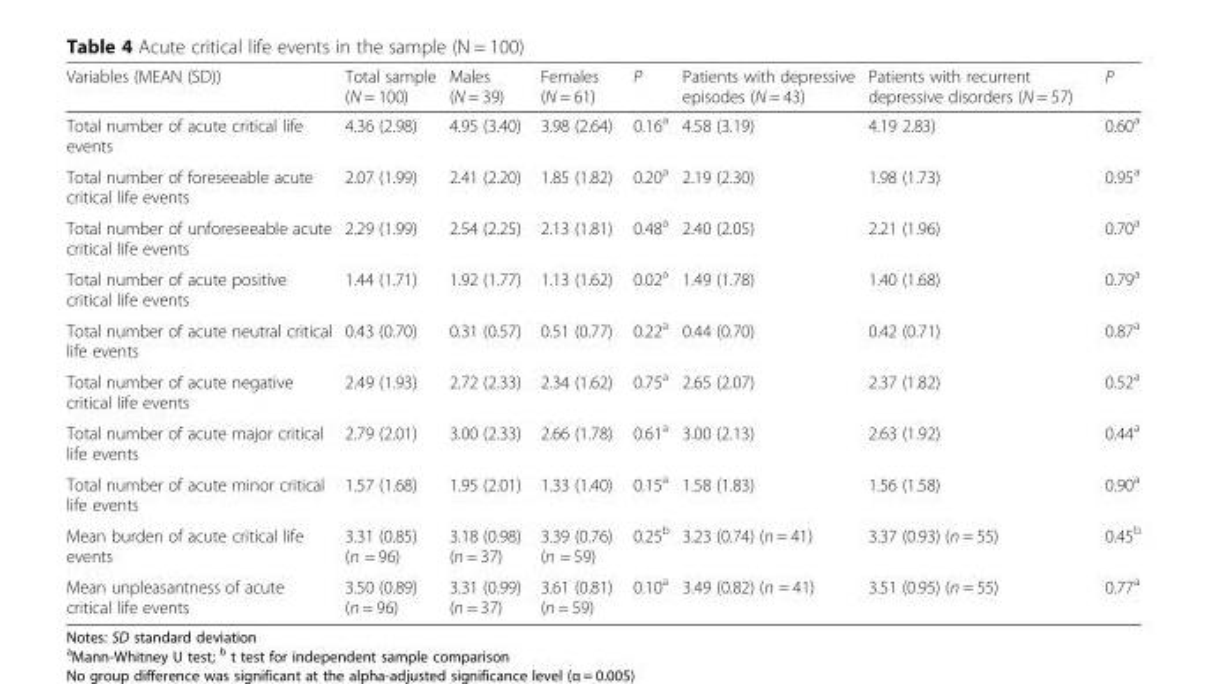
<table><thead><tr><td>Variables (MEAN (SD))</td><td>Total sample (N = 100)</td><td>Males (N = 39)</td><td>Females (N = 61)</td><td>P</td><td>Patients with depressive episodes (N = 43)</td><td>Patients with recurrent depressive disorders (N = 57)</td><td>P</td></tr></thead><tbody><tr><td>Total number of acute critical life events</td><td>4.36 (2.98)</td><td>4.95 (3.40)</td><td>3.98 (2.64)</td><td>0.16<sup>a</sup></td><td>4.58 (3.19)</td><td>4.19 2.83)</td><td>0.60<sup>a</sup></td></tr><tr><td>Total number of foreseeable acute critical life events</td><td>2.07 (1.99)</td><td>2.41 (2.20)</td><td>1.85 (1.82)</td><td>0.20<sup>a</sup></td><td>2.19 (2.30)</td><td>1.98 (1.73)</td><td>0.95<sup>a</sup></td></tr><tr><td>Total number of unforeseeable acute critical life events</td><td>2.29 (1.99)</td><td>2.54 (2.25)</td><td>2.13 (1.81)</td><td>0.48<sup>a</sup></td><td>2.40 (2.05)</td><td>2.21 (1.96)</td><td>0.70<sup>a</sup></td></tr><tr><td>Total number of acute positive critical life events</td><td>1.44 (1.71)</td><td>1.92 (1.77)</td><td>1.13 (1.62)</td><td>0.02<sup>a</sup></td><td>1.49 (1.78)</td><td>1.40 (1.68)</td><td>0.79<sup>a</sup></td></tr><tr><td>Total number of acute neutral critical life events</td><td>0.43 (0.70)</td><td>0.31 (0.57)</td><td>0.51 (0.77)</td><td>0.22<sup>a</sup></td><td>0.44 (0.70)</td><td>0.42 (0.71)</td><td>0.87<sup>a</sup></td></tr><tr><td>Total number of acute negative critical life events</td><td>2.49 (1.93)</td><td>2.72 (2.33)</td><td>2.34 (1.62)</td><td>0.75<sup>a</sup></td><td>2.65 (2.07)</td><td>2.37 (1.82)</td><td>0.52<sup>a</sup></td></tr><tr><td>Total number of acute major critical life events</td><td>2.79 (2.01)</td><td>3.00 (2.33)</td><td>2.66 (1.78)</td><td>0.61<sup>a</sup></td><td>3.00 (2.13)</td><td>2.63 (1.92)</td><td>0.44<sup>a</sup></td></tr><tr><td>Total number of acute minor critical life events</td><td>1.57 (1.68)</td><td>1.95 (2.01)</td><td>1.33 (1.40)</td><td>0.15<sup>a</sup></td><td>1.58 (1.83)</td><td>1.56 (1.58)</td><td>0.90<sup>a</sup></td></tr><tr><td>Mean burden of acute critical life events</td><td>3.31 (0.85) (n = 96)</td><td>3.18 (0.98) (n = 37)</td><td>3.39 (0.76) (n = 59)</td><td>0.25<sup>b</sup></td><td>3.23 (0.74) (n = 41)</td><td>3.37 (0.93) (n = 55)</td><td>0.45<sup>b</sup></td></tr><tr><td>Mean unpleasantness of acute critical life events</td><td>3.50 (0.89) (n = 96)</td><td>3.31 (0.99) (n = 37)</td><td>3.61 (0.81) (n = 59)</td><td>0.10<sup>a</sup></td><td>3.49 (0.82) (n = 41)</td><td>3.51 (0.95) (n = 55)</td><td>0.77<sup>a</sup></td></tr></tbody></table>